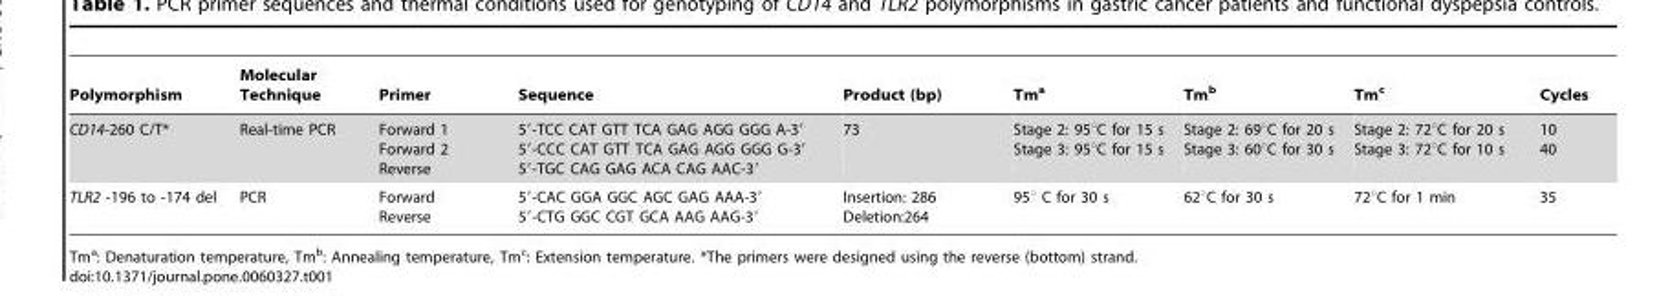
<table><thead><tr><td>Polymorphism</td><td>Molecular Technique</td><td>Primer</td><td>Sequence</td><td>Product (bp)</td><td>Tm<sup>a</sup></td><td>Tm<sup>b</sup></td><td>Tm<sup>c</sup></td><td>Cycles</td></tr></thead><tbody><tr><td>CD14-260 C/T*</td><td>Real-time PCR</td><td>Forward 1 Forward 2 Reverse</td><td>5′-TCC CAT GTT TCA GAG AGG GGG A-3′ 5′-CCC CAT GTT TCA GAG AGG GGG G-3′ 5′-TGC CAG GAG ACA CAG AAC-3′</td><td>73</td><td>Stage 2: 95°C for 15 s Stage 3: 95°C for 15 s</td><td>Stage 2: 69°C for 20 s Stage 3: 60°C for 30 s</td><td>Stage 2: 72°C for 20 s Stage 3: 72°C for 10 s</td><td>10 40</td></tr><tr><td>TLR2 -196 to -174 del</td><td>PCR</td><td>Forward Reverse</td><td>5′-CAC GGA GGC AGC GAG AAA-3′ 5′-CTG GGC CGT GCA AAG AAG-3′</td><td>Insertion: 286 Deletion:264</td><td>95° C for 30 s</td><td>62°C for 30 s</td><td>72°C for 1 min</td><td>35</td></tr></tbody></table>